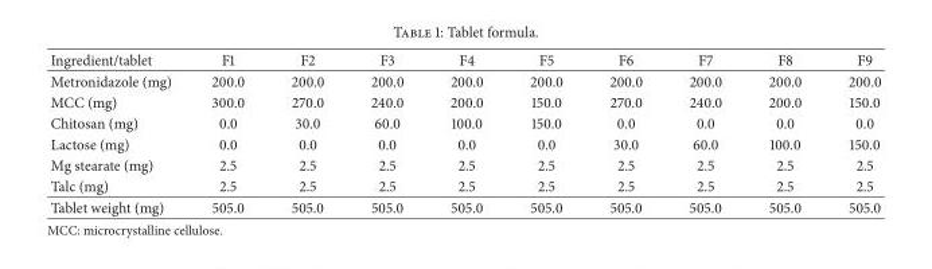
<table><thead><tr><td>Ingredient/tablet</td><td>F1</td><td>F2</td><td>F3</td><td>F4</td><td>F5</td><td>F6</td><td>F7</td><td>F8</td><td>F9</td></tr></thead><tbody><tr><td>Metronidazole (mg)</td><td>200.0</td><td>200.0</td><td>200.0</td><td>200.0</td><td>200.0</td><td>200.0</td><td>200.0</td><td>200.0</td><td>200.0</td></tr><tr><td>MCC (mg)</td><td>300.0</td><td>270.0</td><td>240.0</td><td>200.0</td><td>150.0</td><td>270.0</td><td>240.0</td><td>200.0</td><td>150.0</td></tr><tr><td>Chitosan (mg)</td><td>0.0</td><td>30.0</td><td>60.0</td><td>100.0</td><td>150.0</td><td>0.0</td><td>0.0</td><td>0.0</td><td>0.0</td></tr><tr><td>Lactose (mg)</td><td>0.0</td><td>0.0</td><td>0.0</td><td>0.0</td><td>0.0</td><td>30.0</td><td>60.0</td><td>100.0</td><td>150.0</td></tr><tr><td>Mg stearate (mg)</td><td>2.5</td><td>2.5</td><td>2.5</td><td>2.5</td><td>2.5</td><td>2.5</td><td>2.5</td><td>2.5</td><td>2.5</td></tr><tr><td>Talc (mg)</td><td>2.5</td><td>2.5</td><td>2.5</td><td>2.5</td><td>2.5</td><td>2.5</td><td>2.5</td><td>2.5</td><td>2.5</td></tr><tr><td>Tablet weight (mg)</td><td>505.0</td><td>505.0</td><td>505.0</td><td>505.0</td><td>505.0</td><td>505.0</td><td>505.0</td><td>505.0</td><td>505.0</td></tr></tbody></table>